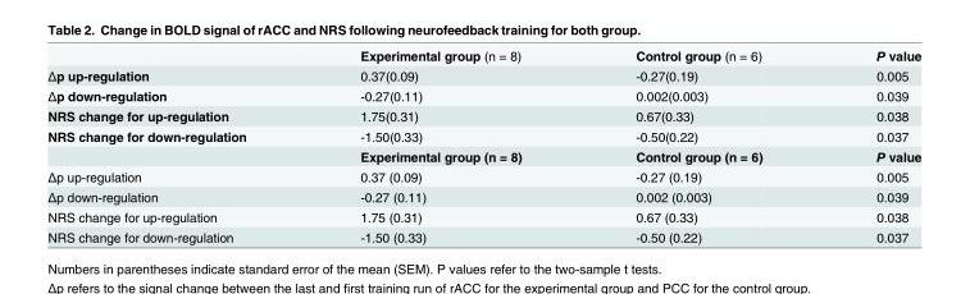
<table><thead><tr><td></td><td>Experimental group (n = 8)</td><td>Control group (n = 6)</td><td>P value</td></tr></thead><tbody><tr><td>Δp up-regulation</td><td>0.37(0.09)</td><td>-0.27(0.19)</td><td>0.005</td></tr><tr><td>Δp down-regulation</td><td>-0.27(0.11)</td><td>0.002(0.003)</td><td>0.039</td></tr><tr><td>NRS change for up-regulation</td><td>1.75(0.31)</td><td>0.67(0.33)</td><td>0.038</td></tr><tr><td rowspan="2">NRS change for down-regulation</td><td>-1.50(0.33)</td><td>-0.50(0.22)</td><td>0.037</td></tr><tr><td>Experimental group (n = 8)</td><td>Control group (n = 6)</td><td>P value</td></tr><tr><td>Δp up-regulation</td><td>0.37 (0.09)</td><td>-0.27 (0.19)</td><td>0.005</td></tr><tr><td>Δp down-regulation</td><td>-0.27 (0.11)</td><td>0.002 (0.003)</td><td>0.039</td></tr><tr><td>NRS change for up-regulation</td><td>1.75 (0.31)</td><td>0.67 (0.33)</td><td>0.038</td></tr><tr><td>NRS change for down-regulation</td><td>-1.50 (0.33)</td><td>-0.50 (0.22)</td><td>0.037</td></tr></tbody></table>